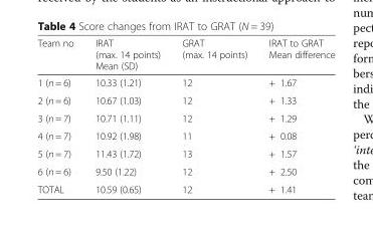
<table><thead><tr><td>Team no</td><td>IRAT (max. 14 points) Mean (SD)</td><td>GRAT (max. 14 points)</td><td>IRAT to GRAT Mean difference</td></tr></thead><tbody><tr><td>1 (n = 6)</td><td>10.33 (1.21)</td><td>12</td><td>+ 1.67</td></tr><tr><td>2 (n = 6)</td><td>10.67 (1.03)</td><td>12</td><td>+ 1.33</td></tr><tr><td>3 (n = 7)</td><td>10.71 (1.11)</td><td>12</td><td>+ 1.29</td></tr><tr><td>4 (n = 7)</td><td>10.92 (1.98)</td><td>11</td><td>+ 0.08</td></tr><tr><td>5 (n = 7)</td><td>11.43 (1.72)</td><td>13</td><td>+ 1.57</td></tr><tr><td>6 (n = 6)</td><td>9.50 (1.22)</td><td>12</td><td>+ 2.50</td></tr><tr><td>TOTAL</td><td>10.59 (0.65)</td><td>12</td><td>+ 1.41</td></tr></tbody></table>